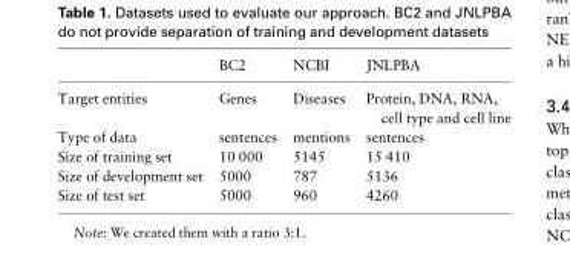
<table><thead><tr><td></td><td>BC2</td><td>NCBI</td><td>JNLPBA</td></tr></thead><tbody><tr><td>Target entities</td><td>Genes</td><td>Diseases</td><td>Protein, DNA, RNA, cell type and cell line</td></tr><tr><td>Type of data</td><td>sentences</td><td>mentions</td><td>sentences</td></tr><tr><td>Size of training set</td><td>10 000</td><td>5145</td><td>15 410</td></tr><tr><td>Size of development set</td><td>5000</td><td>787</td><td>5136</td></tr><tr><td>Size of test set</td><td>5000</td><td>960</td><td>4260</td></tr></tbody></table>